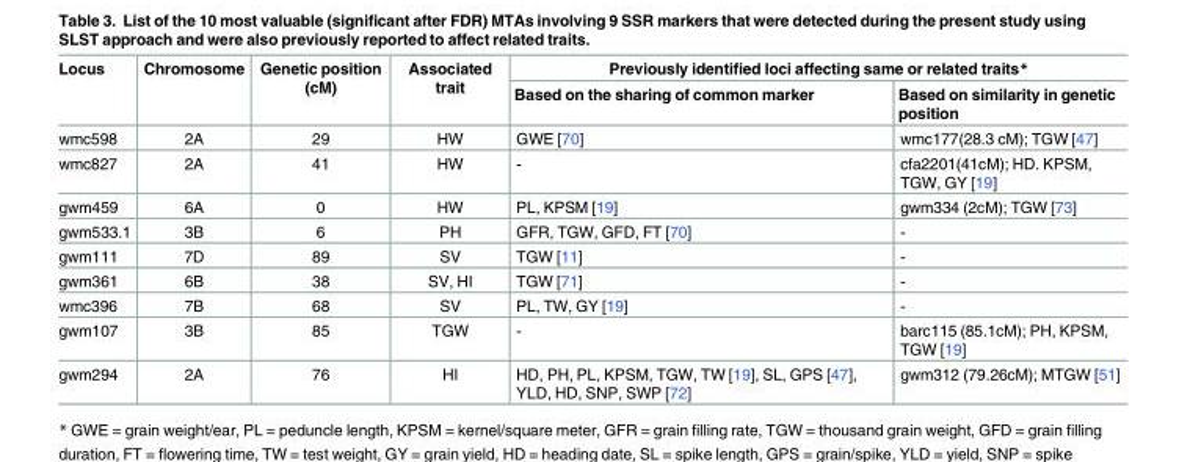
<table><thead><tr><td rowspan="2">Locus</td><td rowspan="2">Chromosome</td><td rowspan="2">Genetic position (cM)</td><td rowspan="2">Associated trait</td><td colspan="2">Previously identified loci affecting same or related traits*</td></tr><tr><td>Based on the sharing of common marker</td><td>Based on similarity in genetic position</td></tr></thead><tbody><tr><td>wmc598</td><td>2A</td><td>29</td><td>HW</td><td>GWE [70]</td><td>wmc177(28.3 cM); TGW [47]</td></tr><tr><td>wmc827</td><td>2A</td><td>41</td><td>HW</td><td>-</td><td>cfa2201(41cM); HD. KPSM, TGW, GY [19]</td></tr><tr><td>gwm459</td><td>6A</td><td>0</td><td>HW</td><td>PL, KPSM [19]</td><td>gwm334 (2cM); TGW [73]</td></tr><tr><td>gwm533.1</td><td>3B</td><td>6</td><td>PH</td><td>GFR, TGW, GFD, FT [70]</td><td>-</td></tr><tr><td>gwm111</td><td>7D</td><td>89</td><td>SV</td><td>TGW [11]</td><td>-</td></tr><tr><td>gwm361</td><td>6B</td><td>38</td><td>SV, HI</td><td>TGW [71]</td><td>-</td></tr><tr><td>wmc396</td><td>7B</td><td>68</td><td>SV</td><td>PL, TW, GY [19]</td><td>-</td></tr><tr><td>gwm107</td><td>3B</td><td>85</td><td>TGW</td><td>-</td><td>barc115 (85.1cM); PH, KPSM, TGW [19]</td></tr><tr><td>gwm294</td><td>2A</td><td>76</td><td>HI</td><td>HD, PH, PL, KPSM, TGW, TW [19], SL, GPS [47], YLD, HD, SNP, SWP [72]</td><td>gwm312 (79.26cM); MTGW [51]</td></tr></tbody></table>